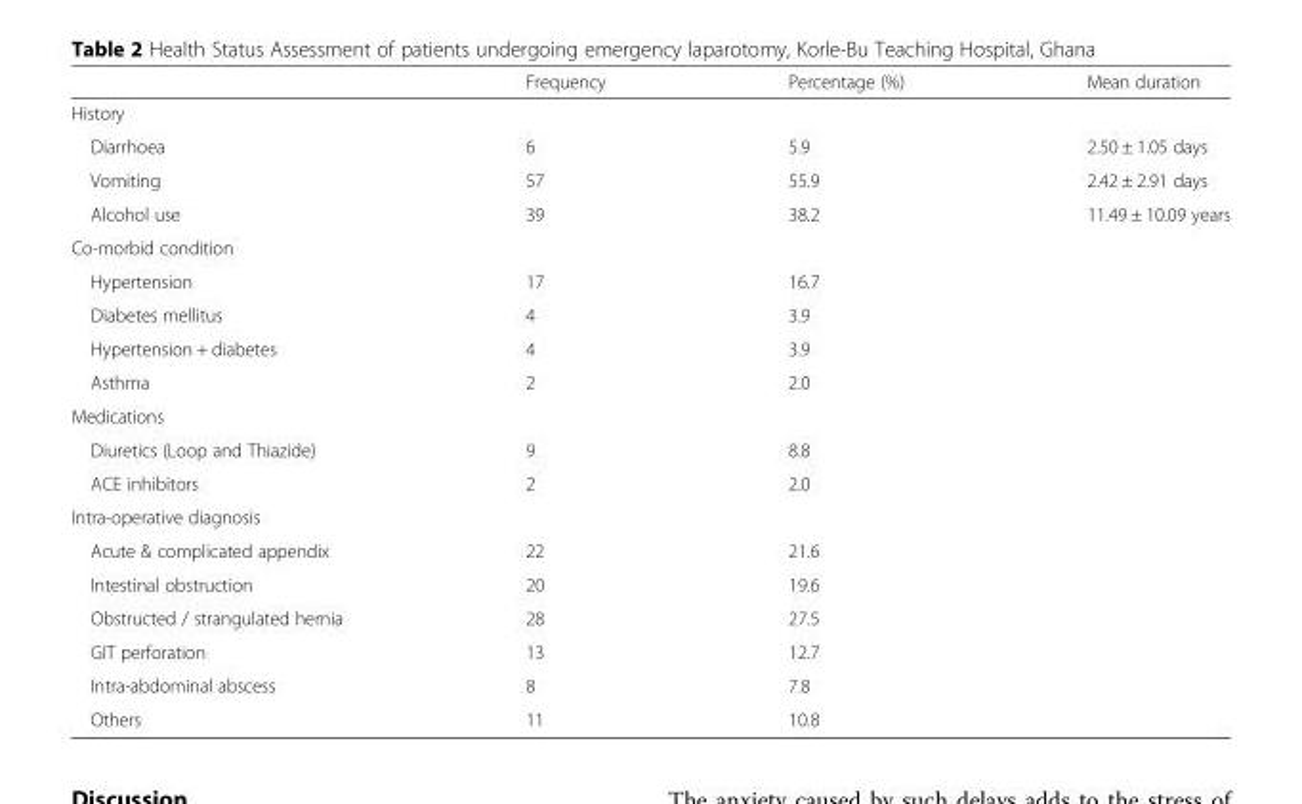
<table><thead><tr><td></td><td>Frequency</td><td>Percentage (%)</td><td>Mean duration</td></tr></thead><tbody><tr><td colspan="4">History</td></tr><tr><td>Diarrhoea</td><td>6</td><td>5.9</td><td>2.50 ± 1.05 days</td></tr><tr><td>Vomiting</td><td>57</td><td>55.9</td><td>2.42 ± 2.91 days</td></tr><tr><td>Alcohol use</td><td>39</td><td>38.2</td><td>11.49 ± 10.09 years</td></tr><tr><td colspan="4">Co-morbid condition</td></tr><tr><td>Hypertension</td><td>17</td><td>16.7</td><td></td></tr><tr><td>Diabetes mellitus</td><td>4</td><td>3.9</td><td></td></tr><tr><td>Hypertension + diabetes</td><td>4</td><td>3.9</td><td></td></tr><tr><td>Asthma</td><td>2</td><td>2.0</td><td></td></tr><tr><td colspan="4">Medications</td></tr><tr><td>Diuretics (Loop and Thiazide)</td><td>9</td><td>8.8</td><td></td></tr><tr><td>ACE inhibitors</td><td>2</td><td>2.0</td><td></td></tr><tr><td colspan="4">Intra-operative diagnosis</td></tr><tr><td>Acute &amp; complicated appendix</td><td>22</td><td>21.6</td><td></td></tr><tr><td>Intestinal obstruction</td><td>20</td><td>19.6</td><td></td></tr><tr><td>Obstructed / strangulated hernia</td><td>28</td><td>27.5</td><td></td></tr><tr><td>GIT perforation</td><td>13</td><td>12.7</td><td></td></tr><tr><td>Intra-abdominal abscess</td><td>8</td><td>7.8</td><td></td></tr><tr><td>Others</td><td>11</td><td>10.8</td><td></td></tr></tbody></table>